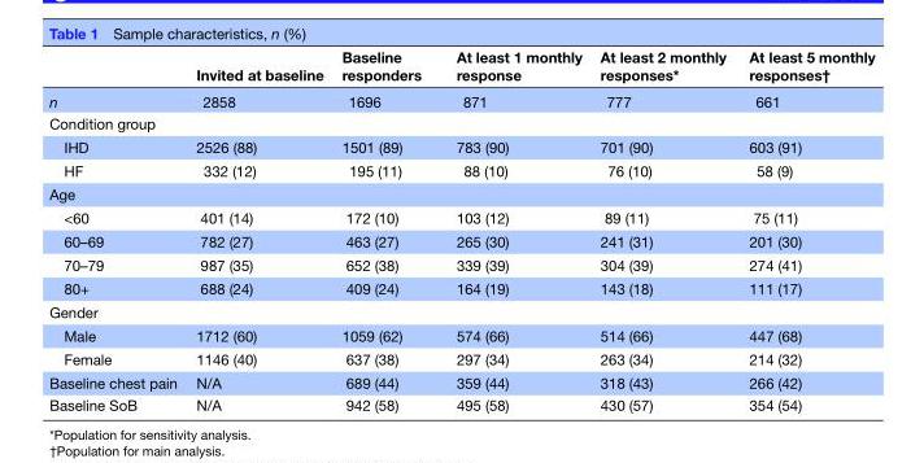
<table><thead><tr><td></td><td>Invited at baseline</td><td>Baseline responders</td><td>At least 1 monthly response</td><td>At least 2 monthly responses*</td><td>At least 5 monthly responses†</td></tr></thead><tbody><tr><td>n</td><td>2858</td><td>1696</td><td>871</td><td>777</td><td>661</td></tr><tr><td colspan="6">Condition group</td></tr><tr><td>IHD</td><td>2526 (88)</td><td>1501 (89)</td><td>783 (90)</td><td>701 (90)</td><td>603 (91)</td></tr><tr><td>HF</td><td>332 (12)</td><td>195 (11)</td><td>88 (10)</td><td>76 (10)</td><td>58 (9)</td></tr><tr><td colspan="6">Age</td></tr><tr><td>&lt;60</td><td>401 (14)</td><td>172 (10)</td><td>103 (12)</td><td>89 (11)</td><td>75 (11)</td></tr><tr><td>60–69</td><td>782 (27)</td><td>463 (27)</td><td>265 (30)</td><td>241 (31)</td><td>201 (30)</td></tr><tr><td>70–79</td><td>987 (35)</td><td>652 (38)</td><td>339 (39)</td><td>304 (39)</td><td>274 (41)</td></tr><tr><td>80+</td><td>688 (24)</td><td>409 (24)</td><td>164 (19)</td><td>143 (18)</td><td>111 (17)</td></tr><tr><td colspan="6">Gender</td></tr><tr><td>Male</td><td>1712 (60)</td><td>1059 (62)</td><td>574 (66)</td><td>514 (66)</td><td>447 (68)</td></tr><tr><td>Female</td><td>1146 (40)</td><td>637 (38)</td><td>297 (34)</td><td>263 (34)</td><td>214 (32)</td></tr><tr><td>Baseline chest pain</td><td>N/A</td><td>689 (44)</td><td>359 (44)</td><td>318 (43)</td><td>266 (42)</td></tr><tr><td>Baseline SoB</td><td>N/A</td><td>942 (58)</td><td>495 (58)</td><td>430 (57)</td><td>354 (54)</td></tr></tbody></table>